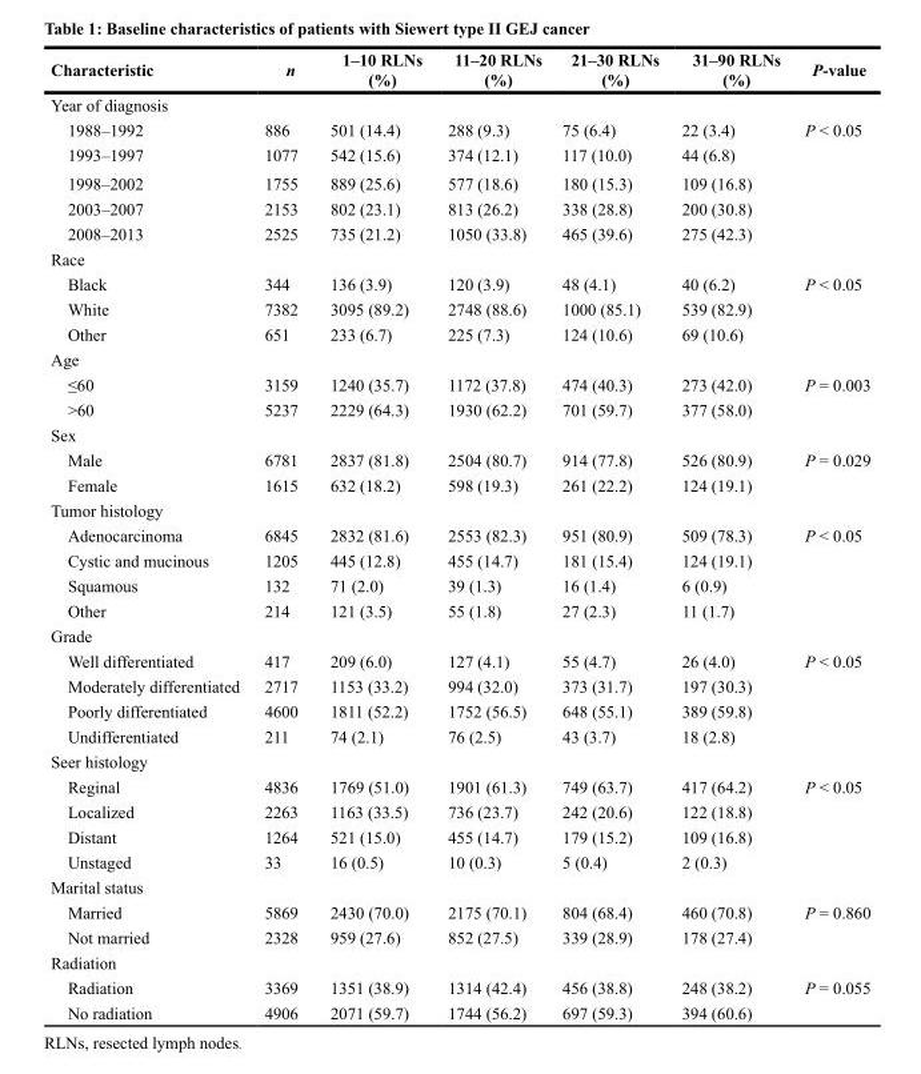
<table><thead><tr><td>Characteristic</td><td>n</td><td>1–10 RLNs (%)</td><td>11–20 RLNs (%)</td><td>21–30 RLNs (%)</td><td>31–90 RLNs (%)</td><td>P-value</td></tr></thead><tbody><tr><td colspan="7">Year of diagnosis</td></tr><tr><td>1988–1992</td><td>886</td><td>501 (14.4)</td><td>288 (9.3)</td><td>75 (6.4)</td><td>22 (3.4)</td><td>P &lt; 0.05</td></tr><tr><td>1993–1997</td><td>1077</td><td>542 (15.6)</td><td>374 (12.1)</td><td>117 (10.0)</td><td>44 (6.8)</td><td></td></tr><tr><td>1998–2002</td><td>1755</td><td>889 (25.6)</td><td>577 (18.6)</td><td>180 (15.3)</td><td>109 (16.8)</td><td></td></tr><tr><td>2003–2007</td><td>2153</td><td>802 (23.1)</td><td>813 (26.2)</td><td>338 (28.8)</td><td>200 (30.8)</td><td></td></tr><tr><td>2008–2013</td><td>2525</td><td>735 (21.2)</td><td>1050 (33.8)</td><td>465 (39.6)</td><td>275 (42.3)</td><td></td></tr><tr><td colspan="7">Race</td></tr><tr><td>Black</td><td>344</td><td>136 (3.9)</td><td>120 (3.9)</td><td>48 (4.1)</td><td>40 (6.2)</td><td>P &lt; 0.05</td></tr><tr><td>White</td><td>7382</td><td>3095 (89.2)</td><td>2748 (88.6)</td><td>1000 (85.1)</td><td>539 (82.9)</td><td></td></tr><tr><td>Other</td><td>651</td><td>233 (6.7)</td><td>225 (7.3)</td><td>124 (10.6)</td><td>69 (10.6)</td><td></td></tr><tr><td colspan="7">Age</td></tr><tr><td>≤60</td><td>3159</td><td>1240 (35.7)</td><td>1172 (37.8)</td><td>474 (40.3)</td><td>273 (42.0)</td><td>P = 0.003</td></tr><tr><td>&gt;60</td><td>5237</td><td>2229 (64.3)</td><td>1930 (62.2)</td><td>701 (59.7)</td><td>377 (58.0)</td><td></td></tr><tr><td colspan="7">Sex</td></tr><tr><td>Male</td><td>6781</td><td>2837 (81.8)</td><td>2504 (80.7)</td><td>914 (77.8)</td><td>526 (80.9)</td><td>P = 0.029</td></tr><tr><td>Female</td><td>1615</td><td>632 (18.2)</td><td>598 (19.3)</td><td>261 (22.2)</td><td>124 (19.1)</td><td></td></tr><tr><td colspan="7">Tumor histology</td></tr><tr><td>Adenocarcinoma</td><td>6845</td><td>2832 (81.6)</td><td>2553 (82.3)</td><td>951 (80.9)</td><td>509 (78.3)</td><td>P &lt; 0.05</td></tr><tr><td>Cystic and mucinous</td><td>1205</td><td>445 (12.8)</td><td>455 (14.7)</td><td>181 (15.4)</td><td>124 (19.1)</td><td></td></tr><tr><td>Squamous</td><td>132</td><td>71 (2.0)</td><td>39 (1.3)</td><td>16 (1.4)</td><td>6 (0.9)</td><td></td></tr><tr><td>Other</td><td>214</td><td>121 (3.5)</td><td>55 (1.8)</td><td>27 (2.3)</td><td>11 (1.7)</td><td></td></tr><tr><td colspan="7">Grade</td></tr><tr><td>Well differentiated</td><td>417</td><td>209 (6.0)</td><td>127 (4.1)</td><td>55 (4.7)</td><td>26 (4.0)</td><td>P &lt; 0.05</td></tr><tr><td>Moderately differentiated</td><td>2717</td><td>1153 (33.2)</td><td>994 (32.0)</td><td>373 (31.7)</td><td>197 (30.3)</td><td></td></tr><tr><td>Poorly differentiated</td><td>4600</td><td>1811 (52.2)</td><td>1752 (56.5)</td><td>648 (55.1)</td><td>389 (59.8)</td><td></td></tr><tr><td>Undifferentiated</td><td>211</td><td>74 (2.1)</td><td>76 (2.5)</td><td>43 (3.7)</td><td>18 (2.8)</td><td></td></tr><tr><td colspan="7">Seer histology</td></tr><tr><td>Reginal</td><td>4836</td><td>1769 (51.0)</td><td>1901 (61.3)</td><td>749 (63.7)</td><td>417 (64.2)</td><td>P &lt; 0.05</td></tr><tr><td>Localized</td><td>2263</td><td>1163 (33.5)</td><td>736 (23.7)</td><td>242 (20.6)</td><td>122 (18.8)</td><td></td></tr><tr><td>Distant</td><td>1264</td><td>521 (15.0)</td><td>455 (14.7)</td><td>179 (15.2)</td><td>109 (16.8)</td><td></td></tr><tr><td>Unstaged</td><td>33</td><td>16 (0.5)</td><td>10 (0.3)</td><td>5 (0.4)</td><td>2 (0.3)</td><td></td></tr><tr><td colspan="7">Marital status</td></tr><tr><td>Married</td><td>5869</td><td>2430 (70.0)</td><td>2175 (70.1)</td><td>804 (68.4)</td><td>460 (70.8)</td><td>P = 0.860</td></tr><tr><td>Not married</td><td>2328</td><td>959 (27.6)</td><td>852 (27.5)</td><td>339 (28.9)</td><td>178 (27.4)</td><td></td></tr><tr><td colspan="7">Radiation</td></tr><tr><td>Radiation</td><td>3369</td><td>1351 (38.9)</td><td>1314 (42.4)</td><td>456 (38.8)</td><td>248 (38.2)</td><td>P = 0.055</td></tr><tr><td>No radiation</td><td>4906</td><td>2071 (59.7)</td><td>1744 (56.2)</td><td>697 (59.3)</td><td>394 (60.6)</td><td></td></tr></tbody></table>